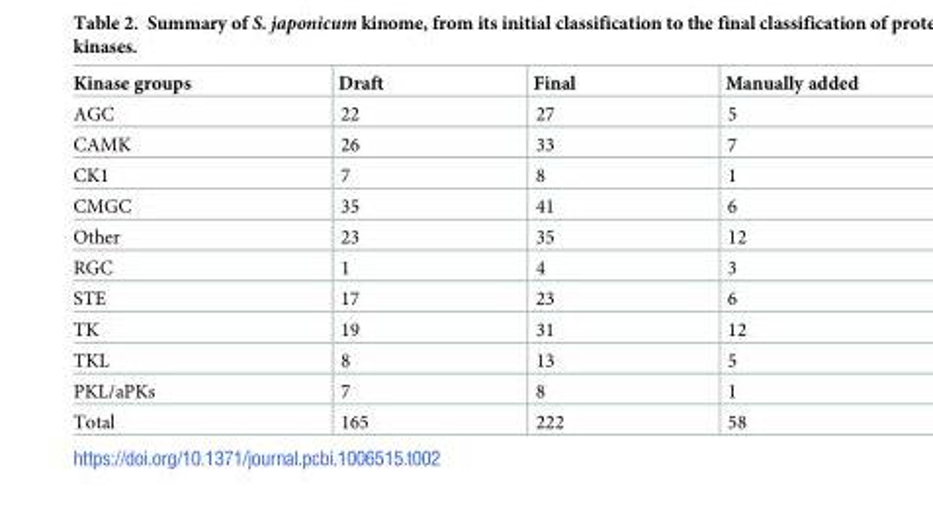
<table><thead><tr><td>Kinase groups</td><td>Draft</td><td>Final</td><td>Manually added</td></tr></thead><tbody><tr><td>AGC</td><td>22</td><td>27</td><td>5</td></tr><tr><td>CAMK</td><td>26</td><td>33</td><td>7</td></tr><tr><td>CK1</td><td>7</td><td>8</td><td>1</td></tr><tr><td>CMGC</td><td>35</td><td>41</td><td>6</td></tr><tr><td>Other</td><td>23</td><td>35</td><td>12</td></tr><tr><td>RGC</td><td>1</td><td>4</td><td>3</td></tr><tr><td>STE</td><td>17</td><td>23</td><td>6</td></tr><tr><td>TK</td><td>19</td><td>31</td><td>12</td></tr><tr><td>TKL</td><td>8</td><td>13</td><td>5</td></tr><tr><td>PKL/aPKs</td><td>7</td><td>8</td><td>1</td></tr><tr><td>Total</td><td>165</td><td>222</td><td>58</td></tr></tbody></table>